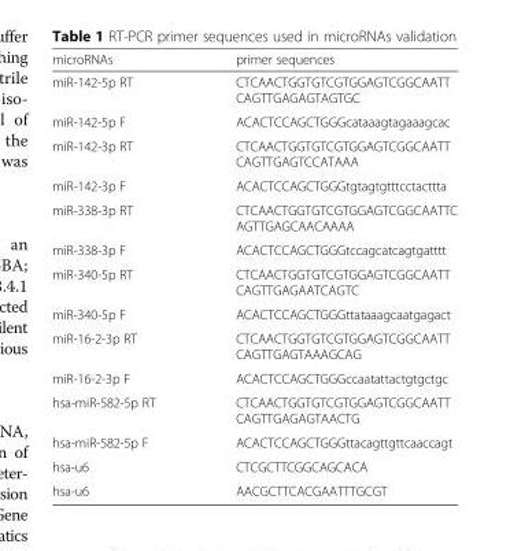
<table><thead><tr><td>microRNAs</td><td>primer sequences</td></tr></thead><tbody><tr><td>miR-142-5p RT</td><td>CTCAACTGGTGTCGTGGAGTCGGCAATT CAGTTGAGAGTAGTGC</td></tr><tr><td>miR-142-5p F</td><td>ACACTCCAGCTGGGcataaagtagaaagcac</td></tr><tr><td>miR-142-3p RT</td><td>CTCAACTGGTGTCGTGGAGTCGGCAATT CAGTTGAGTCCATAAA</td></tr><tr><td>miR-142-3p F</td><td>ACACTCCAGCTGGGtgtagtgtttcctacttta</td></tr><tr><td>miR-338-3p RT</td><td>CTCAACTGGTGTCGTGGAGTCGGCAATTC AGTTGAGCAACAAAA</td></tr><tr><td>miR-338-3p F</td><td>ACACTCCAGCTGGGtccagcatcagtgatttt</td></tr><tr><td>miR-340-5p RT</td><td>CTCAACTGGTGTCGTGGAGTCGGCAATT CAGTTGAGAATCAGTC</td></tr><tr><td>miR-340-5p F</td><td>ACACTCCAGCTGGGttataaagcaatgagact</td></tr><tr><td>miR-16-2-3p RT</td><td>CTCAACTGGTGTCGTGGAGTCGGCAATT CAGTTGAGTAAAGCAG</td></tr><tr><td>miR-16-2-3p F</td><td>ACACTCCAGCTGGGccaatattactgtgctgc</td></tr><tr><td>hsa-miR-582-5p RT</td><td>CTCAACTGGTGTCGTGGAGTCGGCAATT CAGTTGAGAGTAACTG</td></tr><tr><td>hsa-miR-582-5p F</td><td>ACACTCCAGCTGGGttacagttgttcaaccagt</td></tr><tr><td>hsa-u6</td><td>CTCGCTTCGGCAGCACA</td></tr><tr><td>hsa-u6</td><td>AACGCTTCACGAATTTGCGT</td></tr></tbody></table>